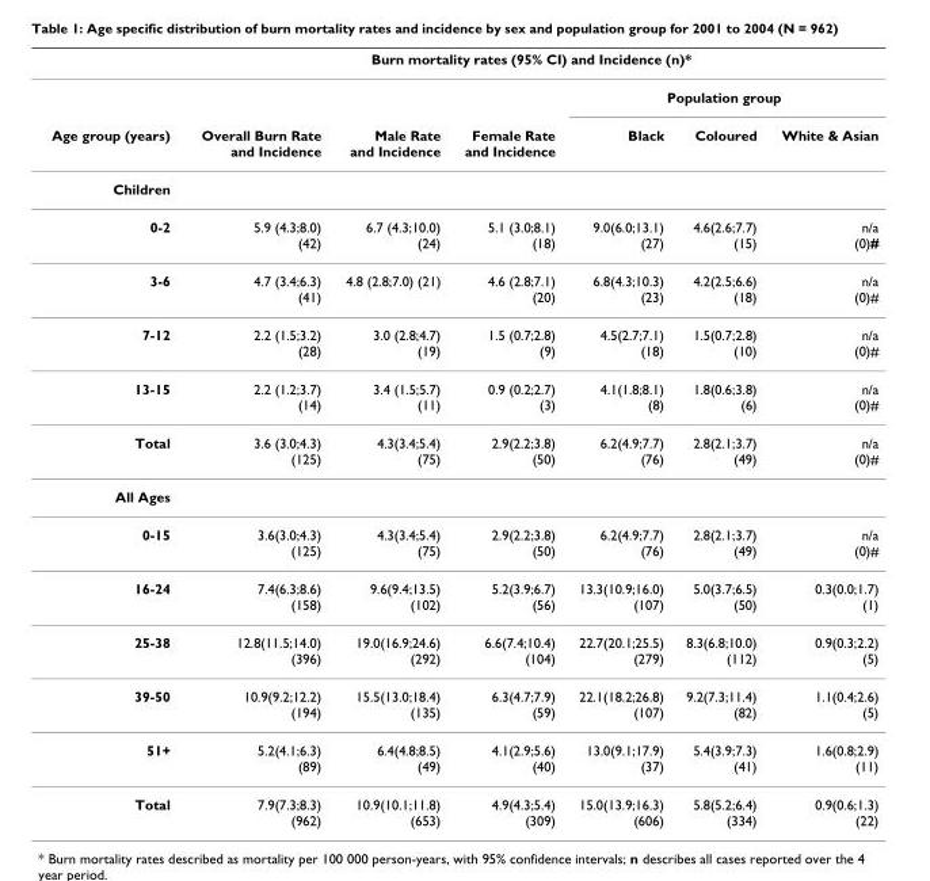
<table><thead><tr><td rowspan="3">Age group (years)</td><td colspan="6">Burn mortality rates (95% CI) and Incidence (n)*</td></tr><tr><td rowspan="2">Overall Burn Rate and Incidence</td><td rowspan="2">Male Rate and Incidence</td><td rowspan="2">Female Rate and Incidence</td><td colspan="3">Population group</td></tr><tr><td>Black</td><td>Coloured</td><td>White &amp; Asian</td></tr></thead><tbody><tr><td colspan="7">Children</td></tr><tr><td>0-2</td><td>5.9 (4.3;8.0) (42)</td><td>6.7 (4.3;10.0) (24)</td><td>5.1 (3.0;8.1) (18)</td><td>9.0(6.0;13.1) (27)</td><td>4.6(2.6;7.7) (15)</td><td>n/a (0)#</td></tr><tr><td>3-6</td><td>4.7 (3.4;6.3) (41)</td><td>4.8 (2.8;7.0) (21)</td><td>4.6 (2.8;7.1) (20)</td><td>6.8(4.3;10.3) (23)</td><td>4.2(2.5;6.6) (18)</td><td>n/a (0)#</td></tr><tr><td>7-12</td><td>2.2 (1.5;3.2) (28)</td><td>3.0 (2.8;4.7) (19)</td><td>1.5 (0.7;2.8) (9)</td><td>4.5(2.7;7.1) (18)</td><td>1.5(0.7;2.8) (10)</td><td>n/a (0)#</td></tr><tr><td>13-15</td><td>2.2 (1.2;3.7) (14)</td><td>3.4 (1.5;5.7) (11)</td><td>0.9 (0.2;2.7) (3)</td><td>4.1(1.8;8.1) (8)</td><td>1.8(0.6;3.8) (6)</td><td>n/a (0)#</td></tr><tr><td>Total</td><td>3.6 (3.0;4.3) (125)</td><td>4.3(3.4;5.4) (75)</td><td>2.9(2.2;3.8) (50)</td><td>6.2(4.9;7.7) (76)</td><td>2.8(2.1;3.7) (49)</td><td>n/a (0)#</td></tr><tr><td colspan="7">All Ages</td></tr><tr><td>0-15</td><td>3.6(3.0;4.3) (125)</td><td>4.3(3.4;5.4) (75)</td><td>2.9(2.2;3.8) (50)</td><td>6.2(4.9;7.7) (76)</td><td>2.8(2.1;3.7) (49)</td><td>n/a (0)#</td></tr><tr><td>16-24</td><td>7.4(6.3;8.6) (158)</td><td>9.6(9.4;13.5) (102)</td><td>5.2(3.9;6.7) (56)</td><td>13.3(10.9;16.0) (107)</td><td>5.0(3.7;6.5) (50)</td><td>0.3(0.0;1.7) (1)</td></tr><tr><td>25-38</td><td>12.8(11.5;14.0) (396)</td><td>19.0(16.9;24.6) (292)</td><td>6.6(7.4;10.4) (104)</td><td>22.7(20.1;25.5) (279)</td><td>8.3(6.8;10.0) (112)</td><td>0.9(0.3;2.2) (5)</td></tr><tr><td>39-50</td><td>10.9(9.2;12.2) (194)</td><td>15.5(13.0;18.4) (135)</td><td>6.3(4.7;7.9) (59)</td><td>22.1(18.2;26.8) (107)</td><td>9.2(7.3;11.4) (82)</td><td>1.1(0.4;2.6) (5)</td></tr><tr><td>51+</td><td>5.2(4.1;6.3) (89)</td><td>6.4(4.8;8.5) (49)</td><td>4.1(2.9;5.6) (40)</td><td>13.0(9.1;17.9) (37)</td><td>5.4(3.9;7.3) (41)</td><td>1.6(0.8;2.9) (11)</td></tr><tr><td>Total</td><td>7.9(7.3;8.3) (962)</td><td>10.9(10.1;11.8) (653)</td><td>4.9(4.3;5.4) (309)</td><td>15.0(13.9;16.3) (606)</td><td>5.8(5.2;6.4) (334)</td><td>0.9(0.6;1.3) (22)</td></tr></tbody></table>